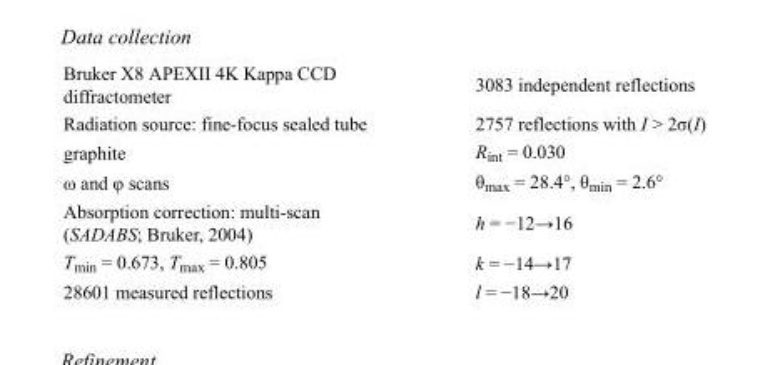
<table><tbody><tr><td>Bruker X8 APEXII 4K Kappa CCD diffractometer</td><td>3083 independent reflections</td></tr><tr><td>Radiation source: fine-focus sealed tube</td><td>2757 reflections with I &gt; 2σ(I)</td></tr><tr><td>graphite</td><td>R<sub>int</sub> = 0.030</td></tr><tr><td>ω and φ scans</td><td>θ<sub>max</sub> = 28.4°, θ<sub>min</sub> = 2.6°</td></tr><tr><td>Absorption correction: multi-scan (SADABS; Bruker, 2004)</td><td>h = −12→16</td></tr><tr><td>T<sub>min</sub> = 0.673, T<sub>max</sub> = 0.805</td><td>k = −14→17</td></tr><tr><td>28601 measured reflections</td><td>l = −18→20</td></tr></tbody></table>